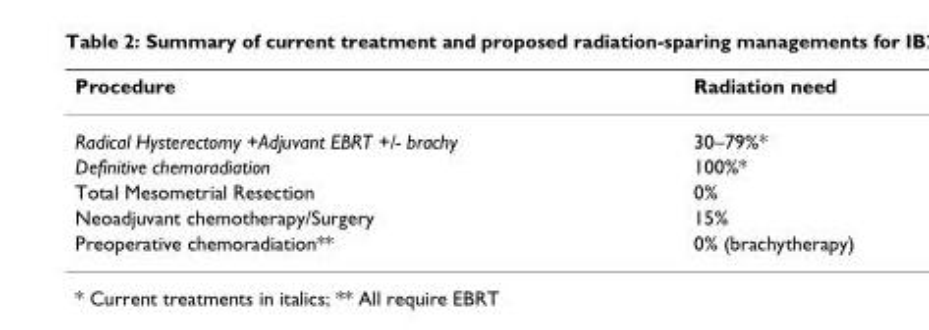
<table><thead><tr><td>Procedure</td><td>Radiation need</td></tr></thead><tbody><tr><td>Radical Hysterectomy +Adjuvant EBRT +/- brachy</td><td>30–79%*</td></tr><tr><td>Definitive chemoradiation</td><td>100%*</td></tr><tr><td>Total Mesometrial Resection</td><td>0%</td></tr><tr><td>Neoadjuvant chemotherapy/Surgery</td><td>15%</td></tr><tr><td>Preoperative chemoradiation**</td><td>0% (brachytherapy)</td></tr></tbody></table>